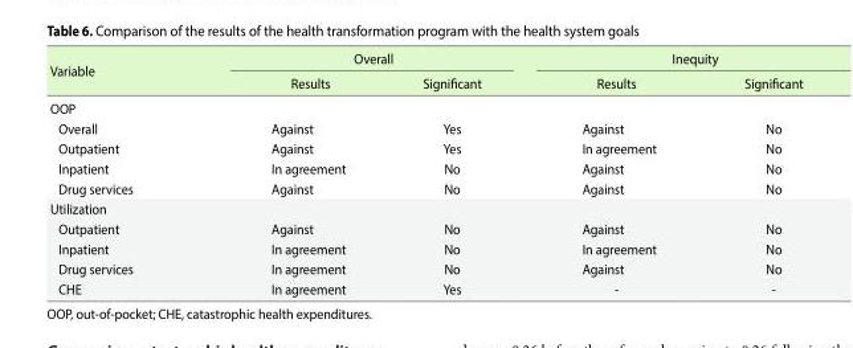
<table><thead><tr><td rowspan="2">Variable</td><td colspan="2">Overall</td><td colspan="2">Inequity</td></tr><tr><td>Results</td><td>Significant</td><td>Results</td><td>Significant</td></tr></thead><tbody><tr><td colspan="5">OOP</td></tr><tr><td>Overall</td><td>Against</td><td>Yes</td><td>Against</td><td>No</td></tr><tr><td>Outpatient</td><td>Against</td><td>Yes</td><td>In agreement</td><td>No</td></tr><tr><td>Inpatient</td><td>In agreement</td><td>No</td><td>Against</td><td>No</td></tr><tr><td>Drug services</td><td>Against</td><td>No</td><td>Against</td><td>No</td></tr><tr><td colspan="5">Utilization</td></tr><tr><td>Outpatient</td><td>Against</td><td>No</td><td>Against</td><td>No</td></tr><tr><td>Inpatient</td><td>In agreement</td><td>No</td><td>In agreement</td><td>No</td></tr><tr><td>Drug services</td><td>In agreement</td><td>No</td><td>Against</td><td>No</td></tr><tr><td>CHE</td><td>In agreement</td><td>Yes</td><td>-</td><td>-</td></tr></tbody></table>